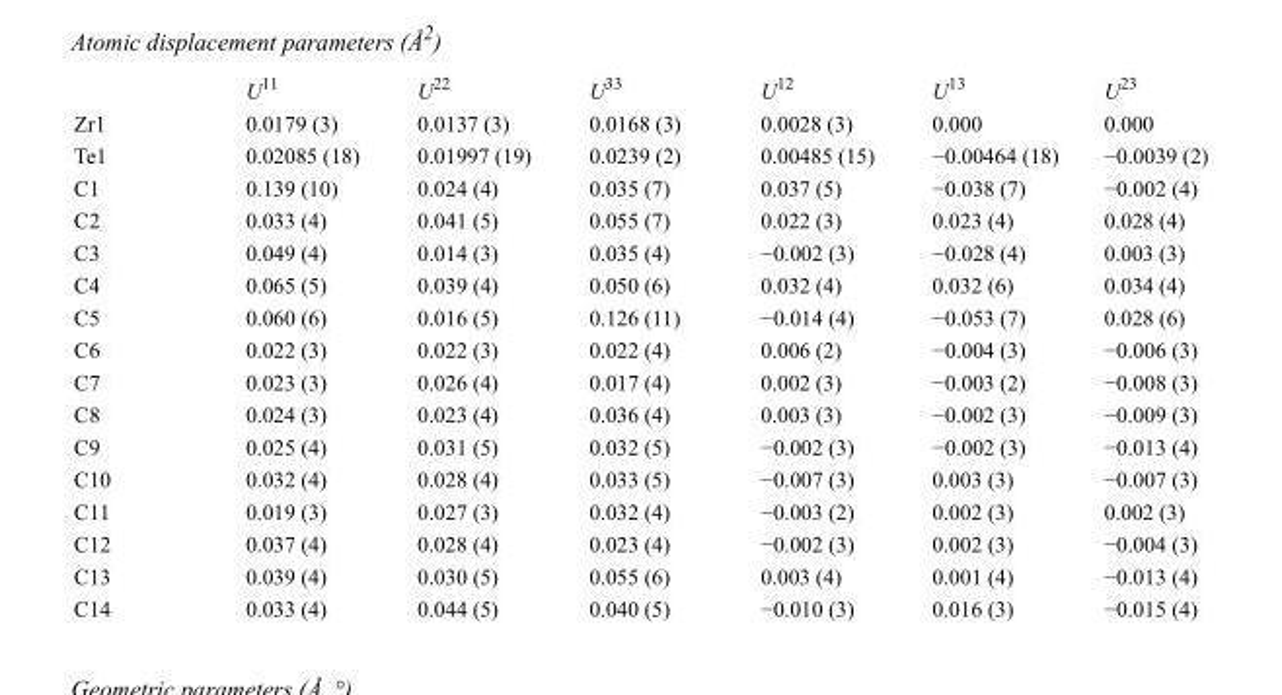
<table><thead><tr><td></td><td>U<sup>11</sup></td><td>U<sup>22</sup></td><td>U<sup>33</sup></td><td>U<sup>12</sup></td><td>U<sup>13</sup></td><td>U<sup>23</sup></td></tr></thead><tbody><tr><td>Zr1</td><td>0.0179 (3)</td><td>0.0137 (3)</td><td>0.0168 (3)</td><td>0.0028 (3)</td><td>0.000</td><td>0.000</td></tr><tr><td>Te1</td><td>0.02085 (18)</td><td>0.01997 (19)</td><td>0.0239 (2)</td><td>0.00485 (15)</td><td>−0.00464 (18)</td><td>−0.0039 (2)</td></tr><tr><td>C1</td><td>0.139 (10)</td><td>0.024 (4)</td><td>0.035 (7)</td><td>0.037 (5)</td><td>−0.038 (7)</td><td>−0.002 (4)</td></tr><tr><td>C2</td><td>0.033 (4)</td><td>0.041 (5)</td><td>0.055 (7)</td><td>0.022 (3)</td><td>0.023 (4)</td><td>0.028 (4)</td></tr><tr><td>C3</td><td>0.049 (4)</td><td>0.014 (3)</td><td>0.035 (4)</td><td>−0.002 (3)</td><td>−0.028 (4)</td><td>0.003 (3)</td></tr><tr><td>C4</td><td>0.065 (5)</td><td>0.039 (4)</td><td>0.050 (6)</td><td>0.032 (4)</td><td>0.032 (6)</td><td>0.034 (4)</td></tr><tr><td>C5</td><td>0.060 (6)</td><td>0.016 (5)</td><td>0.126 (11)</td><td>−0.014 (4)</td><td>−0.053 (7)</td><td>0.028 (6)</td></tr><tr><td>C6</td><td>0.022 (3)</td><td>0.022 (3)</td><td>0.022 (4)</td><td>0.006 (2)</td><td>−0.004 (3)</td><td>−0.006 (3)</td></tr><tr><td>C7</td><td>0.023 (3)</td><td>0.026 (4)</td><td>0.017 (4)</td><td>0.002 (3)</td><td>−0.003 (2)</td><td>−0.008 (3)</td></tr><tr><td>C8</td><td>0.024 (3)</td><td>0.023 (4)</td><td>0.036 (4)</td><td>0.003 (3)</td><td>−0.002 (3)</td><td>−0.009 (3)</td></tr><tr><td>C9</td><td>0.025 (4)</td><td>0.031 (5)</td><td>0.032 (5)</td><td>−0.002 (3)</td><td>−0.002 (3)</td><td>−0.013 (4)</td></tr><tr><td>C10</td><td>0.032 (4)</td><td>0.028 (4)</td><td>0.033 (5)</td><td>−0.007 (3)</td><td>0.003 (3)</td><td>−0.007 (3)</td></tr><tr><td>C11</td><td>0.019 (3)</td><td>0.027 (3)</td><td>0.032 (4)</td><td>−0.003 (2)</td><td>0.002 (3)</td><td>0.002 (3)</td></tr><tr><td>C12</td><td>0.037 (4)</td><td>0.028 (4)</td><td>0.023 (4)</td><td>−0.002 (3)</td><td>0.002 (3)</td><td>−0.004 (3)</td></tr><tr><td>C13</td><td>0.039 (4)</td><td>0.030 (5)</td><td>0.055 (6)</td><td>0.003 (4)</td><td>0.001 (4)</td><td>−0.013 (4)</td></tr><tr><td>C14</td><td>0.033 (4)</td><td>0.044 (5)</td><td>0.040 (5)</td><td>−0.010 (3)</td><td>0.016 (3)</td><td>−0.015 (4)</td></tr></tbody></table>